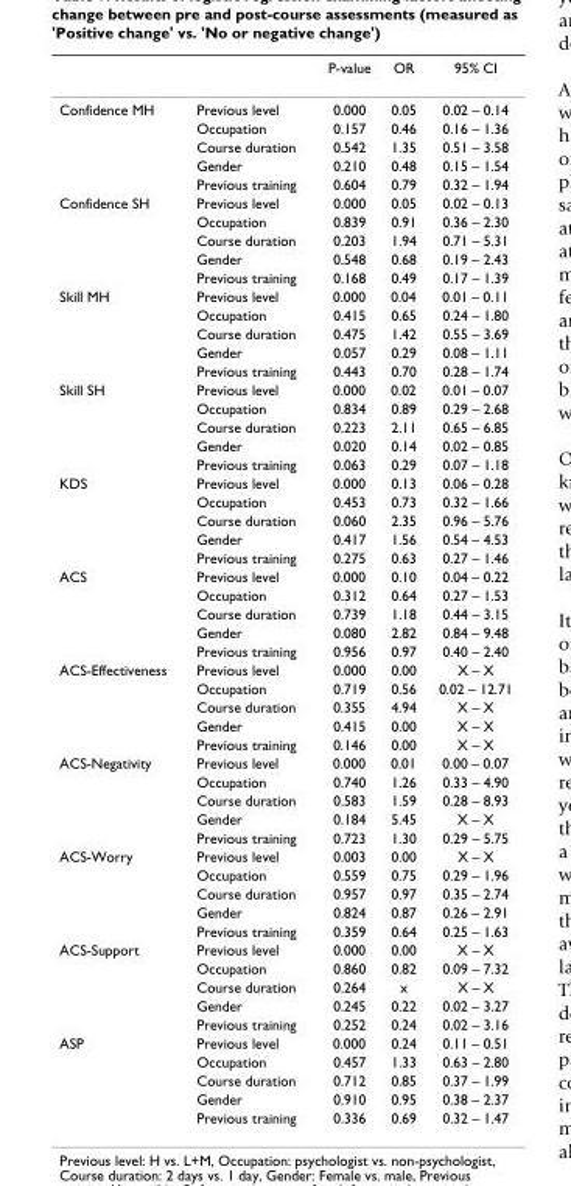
<table><thead><tr><td></td><td></td><td>P-value</td><td>OR</td><td>95% CI</td></tr></thead><tbody><tr><td rowspan="5">Confidence MH</td><td>Previous level</td><td>0.000</td><td>0.05</td><td>0.02 – 0.14</td></tr><tr><td>Occupation</td><td>0.157</td><td>0.46</td><td>0.16 – 1.36</td></tr><tr><td>Course duration</td><td>0.542</td><td>1.35</td><td>0.51 – 3.58</td></tr><tr><td>Gender</td><td>0.210</td><td>0.48</td><td>0.15 – 1.54</td></tr><tr><td>Previous training</td><td>0.604</td><td>0.79</td><td>0.32 – 1.94</td></tr><tr><td rowspan="5">Confidence SH</td><td>Previous level</td><td>0.000</td><td>0.05</td><td>0.02 – 0.13</td></tr><tr><td>Occupation</td><td>0.839</td><td>0.91</td><td>0.36 – 2.30</td></tr><tr><td>Course duration</td><td>0.203</td><td>1.94</td><td>0.71 – 5.31</td></tr><tr><td>Gender</td><td>0.548</td><td>0.68</td><td>0.19 – 2.43</td></tr><tr><td>Previous training</td><td>0.168</td><td>0.49</td><td>0.17 – 1.39</td></tr><tr><td rowspan="5">Skill MH</td><td>Previous level</td><td>0.000</td><td>0.04</td><td>0.01 – 0.11</td></tr><tr><td>Occupation</td><td>0.415</td><td>0.65</td><td>0.24 – 1.80</td></tr><tr><td>Course duration</td><td>0.475</td><td>1.42</td><td>0.55 – 3.69</td></tr><tr><td>Gender</td><td>0.057</td><td>0.29</td><td>0.08 – 1.11</td></tr><tr><td>Previous training</td><td>0.443</td><td>0.70</td><td>0.28 – 1.74</td></tr><tr><td rowspan="5">Skill SH</td><td>Previous level</td><td>0.000</td><td>0.02</td><td>0.01 – 0.07</td></tr><tr><td>Occupation</td><td>0.834</td><td>0.89</td><td>0.29 – 2.68</td></tr><tr><td>Course duration</td><td>0.223</td><td>2.11</td><td>0.65 – 6.85</td></tr><tr><td>Gender</td><td>0.020</td><td>0.14</td><td>0.02 – 0.85</td></tr><tr><td>Previous training</td><td>0.063</td><td>0.29</td><td>0.07 – 1.18</td></tr><tr><td rowspan="5">KDS</td><td>Previous level</td><td>0.000</td><td>0.13</td><td>0.06 – 0.28</td></tr><tr><td>Occupation</td><td>0.453</td><td>0.73</td><td>0.32 – 1.66</td></tr><tr><td>Course duration</td><td>0.060</td><td>2.35</td><td>0.96 – 5.76</td></tr><tr><td>Gender</td><td>0.417</td><td>1.56</td><td>0.54 – 4.53</td></tr><tr><td>Previous training</td><td>0.275</td><td>0.63</td><td>0.27 – 1.46</td></tr><tr><td rowspan="5">ACS</td><td>Previous level</td><td>0.000</td><td>0.10</td><td>0.04 – 0.22</td></tr><tr><td>Occupation</td><td>0.312</td><td>0.64</td><td>0.27 – 1.53</td></tr><tr><td>Course duration</td><td>0.739</td><td>1.18</td><td>0.44 – 3.15</td></tr><tr><td>Gender</td><td>0.080</td><td>2.82</td><td>0.84 – 9.48</td></tr><tr><td>Previous training</td><td>0.956</td><td>0.97</td><td>0.40 – 2.40</td></tr><tr><td rowspan="5">ACS-Effectiveness</td><td>Previous level</td><td>0.000</td><td>0.00</td><td>X – X</td></tr><tr><td>Occupation</td><td>0.719</td><td>0.56</td><td>0.02 – 12.71</td></tr><tr><td>Course duration</td><td>0.355</td><td>4.94</td><td>X – X</td></tr><tr><td>Gender</td><td>0.415</td><td>0.00</td><td>X – X</td></tr><tr><td>Previous training</td><td>0.146</td><td>0.00</td><td>X – X</td></tr><tr><td rowspan="5">ACS-Negativity</td><td>Previous level</td><td>0.000</td><td>0.01</td><td>0.00 – 0.07</td></tr><tr><td>Occupation</td><td>0.740</td><td>1.26</td><td>0.33 – 4.90</td></tr><tr><td>Course duration</td><td>0.583</td><td>1.59</td><td>0.28 – 8.93</td></tr><tr><td>Gender</td><td>0.184</td><td>5.45</td><td>X – X</td></tr><tr><td>Previous training</td><td>0.723</td><td>1.30</td><td>0.29 – 5.75</td></tr><tr><td rowspan="5">ACS-Worry</td><td>Previous level</td><td>0.003</td><td>0.00</td><td>X – X</td></tr><tr><td>Occupation</td><td>0.559</td><td>0.75</td><td>0.29 – 1.96</td></tr><tr><td>Course duration</td><td>0.957</td><td>0.97</td><td>0.35 – 2.74</td></tr><tr><td>Gender</td><td>0.824</td><td>0.87</td><td>0.26 – 2.91</td></tr><tr><td>Previous training</td><td>0.359</td><td>0.64</td><td>0.25 – 1.63</td></tr><tr><td rowspan="5">ACS-Support</td><td>Previous level</td><td>0.000</td><td>0.00</td><td>X – X</td></tr><tr><td>Occupation</td><td>0.860</td><td>0.82</td><td>0.09 – 7.32</td></tr><tr><td>Course duration</td><td>0.264</td><td>x</td><td>X – X</td></tr><tr><td>Gender</td><td>0.245</td><td>0.22</td><td>0.02 – 3.27</td></tr><tr><td>Previous training</td><td>0.252</td><td>0.24</td><td>0.02 – 3.16</td></tr><tr><td rowspan="5">ASP</td><td>Previous level</td><td>0.000</td><td>0.24</td><td>0.11 – 0.51</td></tr><tr><td>Occupation</td><td>0.457</td><td>1.33</td><td>0.63 – 2.80</td></tr><tr><td>Course duration</td><td>0.712</td><td>0.85</td><td>0.37 – 1.99</td></tr><tr><td>Gender</td><td>0.910</td><td>0.95</td><td>0.38 – 2.37</td></tr><tr><td>Previous training</td><td>0.336</td><td>0.69</td><td>0.32 – 1.47</td></tr></tbody></table>